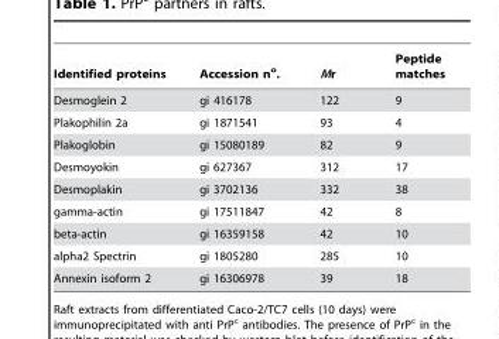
<table><thead><tr><td>Identified proteins</td><td>Accession n<sup>o</sup>.</td><td>Mr</td><td>Peptide matches</td></tr></thead><tbody><tr><td>Desmoglein 2</td><td>gi 416178</td><td>122</td><td>9</td></tr><tr><td>Plakophilin 2a</td><td>gi 1871541</td><td>93</td><td>4</td></tr><tr><td>Plakoglobin</td><td>gi 15080189</td><td>82</td><td>9</td></tr><tr><td>Desmoyokin</td><td>gi 627367</td><td>312</td><td>17</td></tr><tr><td>Desmoplakin</td><td>gi 3702136</td><td>332</td><td>38</td></tr><tr><td>gamma-actin</td><td>gi 17511847</td><td>42</td><td>8</td></tr><tr><td>beta-actin</td><td>gi 16359158</td><td>42</td><td>10</td></tr><tr><td>alpha2 Spectrin</td><td>gi 1805280</td><td>285</td><td>10</td></tr><tr><td>Annexin isoform 2</td><td>gi 16306978</td><td>39</td><td>18</td></tr></tbody></table>